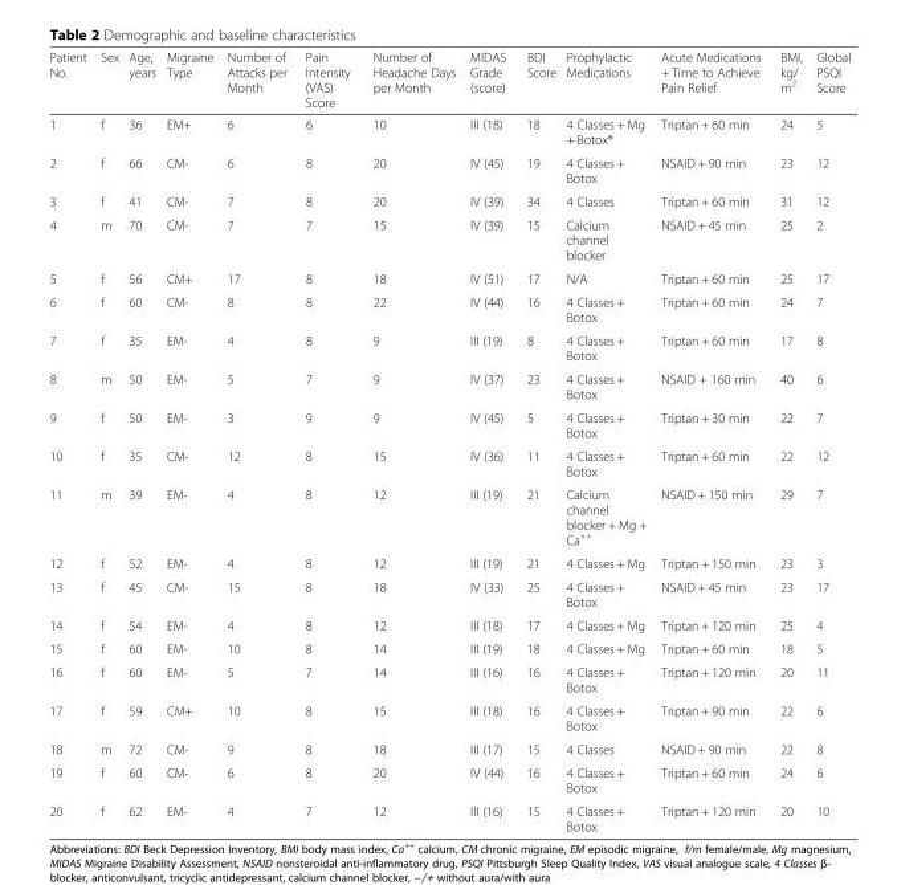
<table><thead><tr><td>Patient No.</td><td>Sex</td><td>Age, years</td><td>Migraine Type</td><td>Number of Attacks per Month</td><td>Pain Intensity (VAS) Score</td><td>Number of Headache Days per Month</td><td>MIDAS Grade (score)</td><td>BDI Score</td><td>Prophylactic Medications</td><td>Acute Medications + Time to Achieve Pain Relief</td><td>BMI, kg/ m<sup>2</sup></td><td>Global PSQI Score</td></tr></thead><tbody><tr><td>1</td><td>f</td><td>36</td><td>EM+</td><td>6</td><td>6</td><td>10</td><td>III (18)</td><td>18</td><td>4 Classes + Mg + Botox®</td><td>Triptan + 60 min</td><td>24</td><td>5</td></tr><tr><td>2</td><td>f</td><td>66</td><td>CM-</td><td>6</td><td>8</td><td>20</td><td>IV (45)</td><td>19</td><td>4 Classes + Botox</td><td>NSAID + 90 min</td><td>23</td><td>12</td></tr><tr><td>3</td><td>f</td><td>41</td><td>CM-</td><td>7</td><td>8</td><td>20</td><td>IV (39)</td><td>34</td><td>4 Classes</td><td>Triptan + 60 min</td><td>31</td><td>12</td></tr><tr><td>4</td><td>m</td><td>70</td><td>CM-</td><td>7</td><td>7</td><td>15</td><td>IV (39)</td><td>15</td><td>Calcium channel blocker</td><td>NSAID + 45 min</td><td>25</td><td>2</td></tr><tr><td>5</td><td>f</td><td>56</td><td>CM+</td><td>17</td><td>8</td><td>18</td><td>IV (51)</td><td>17</td><td>N/A</td><td>Triptan + 60 min</td><td>25</td><td>17</td></tr><tr><td>6</td><td>f</td><td>60</td><td>CM-</td><td>8</td><td>8</td><td>22</td><td>IV (44)</td><td>16</td><td>4 Classes + Botox</td><td>Triptan + 60 min</td><td>24</td><td>7</td></tr><tr><td>7</td><td>f</td><td>35</td><td>EM-</td><td>4</td><td>8</td><td>9</td><td>III (19)</td><td>8</td><td>4 Classes + Botox</td><td>Triptan + 60 min</td><td>17</td><td>8</td></tr><tr><td>8</td><td>m</td><td>50</td><td>EM-</td><td>5</td><td>7</td><td>9</td><td>IV (37)</td><td>23</td><td>4 Classes + Botox</td><td>NSAID + 160 min</td><td>40</td><td>6</td></tr><tr><td>9</td><td>f</td><td>50</td><td>EM-</td><td>3</td><td>9</td><td>9</td><td>IV (45)</td><td>5</td><td>4 Classes + Botox</td><td>Triptan + 30 min</td><td>22</td><td>7</td></tr><tr><td>10</td><td>f</td><td>35</td><td>CM-</td><td>12</td><td>8</td><td>15</td><td>IV (36)</td><td>11</td><td>4 Classes + Botox</td><td>Triptan + 60 min</td><td>22</td><td>12</td></tr><tr><td>11</td><td>m</td><td>39</td><td>EM-</td><td>4</td><td>8</td><td>12</td><td>III (19)</td><td>21</td><td>Calcium channel blocker + Mg + Ca<sup>++</sup></td><td>NSAID + 150 min</td><td>29</td><td>7</td></tr><tr><td>12</td><td>f</td><td>52</td><td>EM-</td><td>4</td><td>8</td><td>12</td><td>III (19)</td><td>21</td><td>4 Classes + Mg</td><td>Triptan + 150 min</td><td>23</td><td>3</td></tr><tr><td>13</td><td>f</td><td>45</td><td>CM-</td><td>15</td><td>8</td><td>18</td><td>IV (33)</td><td>25</td><td>4 Classes + Botox</td><td>NSAID + 45 min</td><td>23</td><td>17</td></tr><tr><td>14</td><td>f</td><td>54</td><td>EM-</td><td>4</td><td>8</td><td>12</td><td>III (18)</td><td>17</td><td>4 Classes + Mg</td><td>Triptan + 120 min</td><td>25</td><td>4</td></tr><tr><td>15</td><td>f</td><td>60</td><td>EM-</td><td>10</td><td>8</td><td>14</td><td>III (19)</td><td>18</td><td>4 Classes + Mg</td><td>Triptan + 60 min</td><td>18</td><td>5</td></tr><tr><td>16</td><td>f</td><td>60</td><td>EM-</td><td>5</td><td>7</td><td>14</td><td>III (16)</td><td>16</td><td>4 Classes + Botox</td><td>Triptan + 120 min</td><td>20</td><td>11</td></tr><tr><td>17</td><td>f</td><td>59</td><td>CM+</td><td>10</td><td>8</td><td>15</td><td>III (18)</td><td>16</td><td>4 Classes + Botox</td><td>Triptan + 90 min</td><td>22</td><td>6</td></tr><tr><td>18</td><td>m</td><td>72</td><td>CM-</td><td>9</td><td>8</td><td>18</td><td>III (17)</td><td>15</td><td>4 Classes</td><td>NSAID + 90 min</td><td>22</td><td>8</td></tr><tr><td>19</td><td>f</td><td>60</td><td>CM-</td><td>6</td><td>8</td><td>20</td><td>IV (44)</td><td>16</td><td>4 Classes + Botox</td><td>Triptan + 60 min</td><td>24</td><td>6</td></tr><tr><td>20</td><td>f</td><td>62</td><td>EM-</td><td>4</td><td>7</td><td>12</td><td>III (16)</td><td>15</td><td>4 Classes + Botox</td><td>Triptan + 120 min</td><td>20</td><td>10</td></tr></tbody></table>